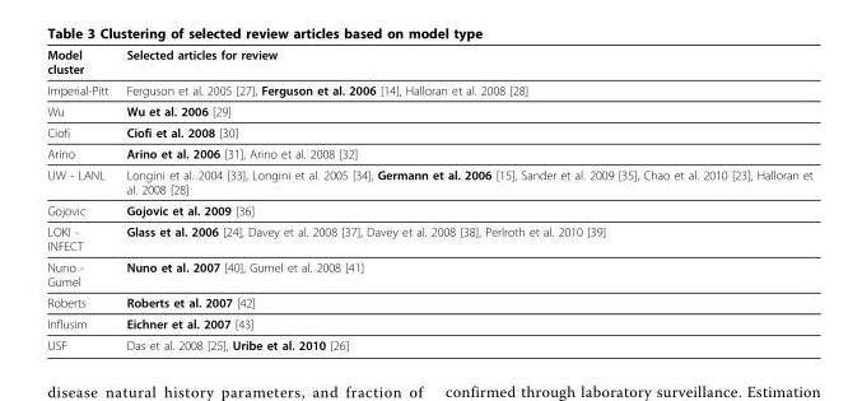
<table><thead><tr><td>Model cluster</td><td>Selected articles for review</td></tr></thead><tbody><tr><td>Imperial-Pitt</td><td>Ferguson et al. 2005 [27], Ferguson et al. 2006 [14], Halloran et al. 2008 [28]</td></tr><tr><td>Wu</td><td>Wu et al. 2006 [29]</td></tr><tr><td>Ciofi</td><td>Ciofi et al. 2008 [30]</td></tr><tr><td>Arino</td><td>Arino et al. 2006 [31], Arino et al. 2008 [32]</td></tr><tr><td>UW - LANL</td><td>Longini et al. 2004 [33], Longini et al. 2005 [34], Germann et al. 2006 [15], Sander et al. 2009 [35], Chao et al. 2010 [23], Halloran et al. 2008 [28]</td></tr><tr><td>Gojovic</td><td>Gojovic et al. 2009 [36]</td></tr><tr><td>LOKI - INFECT</td><td>Glass et al. 2006 [24], Davey et al. 2008 [37], Davey et al. 2008 [38], Perlroth et al. 2010 [39]</td></tr><tr><td>Nuno - Gumel</td><td>Nuno et al. 2007 [40], Gumel et al. 2008 [41]</td></tr><tr><td>Roberts</td><td>Roberts et al. 2007 [42]</td></tr><tr><td>Influsim</td><td>Eichner et al. 2007 [43]</td></tr><tr><td>USF</td><td>Das et al. 2008 [25], Uribe et al. 2010 [26]</td></tr></tbody></table>